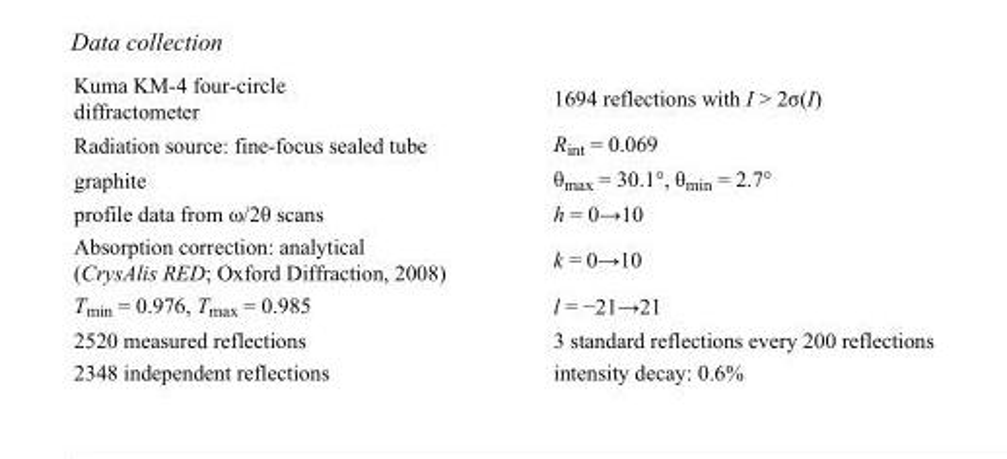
<table><tbody><tr><td>Kuma KM-4 four-circle diffractometer</td><td>1694 reflections with I &gt; 2σ(I)</td></tr><tr><td>Radiation source: fine-focus sealed tube</td><td>R<sub>int</sub> = 0.069</td></tr><tr><td>graphite</td><td>θ<sub>max</sub> = 30.1°, θ<sub>min</sub> = 2.7°</td></tr><tr><td>profile data from ω/2θ scans</td><td>h = 0→10</td></tr><tr><td>Absorption correction: analytical (CrysAlis RED; Oxford Diffraction, 2008)</td><td>k = 0→10</td></tr><tr><td>T<sub>min</sub> = 0.976, T<sub>max</sub> = 0.985</td><td>l = −21→21</td></tr><tr><td>2520 measured reflections</td><td>3 standard reflections every 200 reflections</td></tr><tr><td>2348 independent reflections</td><td>intensity decay: 0.6%</td></tr></tbody></table>